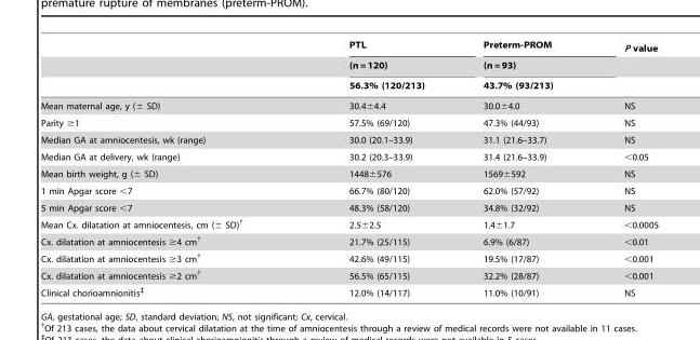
<table><thead><tr><td rowspan="3"></td><td rowspan="3">PTL (n = 120) 56.3% (120/213)</td><td rowspan="3">Preterm-PROM (n = 93) 43.7% (93/213)</td><td rowspan="3">P value</td></tr><tr></tr><tr></tr></thead><tbody><tr><td>Mean maternal age, y (± SD)</td><td>30.4±4.4</td><td>30.0±4.0</td><td>NS</td></tr><tr><td>Parity ≥1</td><td>57.5% (69/120)</td><td>47.3% (44/93)</td><td>NS</td></tr><tr><td>Median GA at amniocentesis, wk (range)</td><td>30.0 (20.1–33.9)</td><td>31.1 (21.6–33.7)</td><td>NS</td></tr><tr><td>Median GA at delivery, wk (range)</td><td>30.2 (20.3–33.9)</td><td>31.4 (21.6–33.9)</td><td>&lt;0.05</td></tr><tr><td>Mean birth weight, g (± SD)</td><td>1448±576</td><td>1569±592</td><td>NS</td></tr><tr><td>1 min Apgar score &lt;7</td><td>66.7% (80/120)</td><td>62.0% (57/92)</td><td>NS</td></tr><tr><td>5 min Apgar score &lt;7</td><td>48.3% (58/120)</td><td>34.8% (32/92)</td><td>NS</td></tr><tr><td>Mean Cx. dilatation at amniocentesis, cm (± SD)†</td><td>2.5±2.5</td><td>1.4±1.7</td><td>&lt;0.0005</td></tr><tr><td>Cx. dilatation at amniocentesis ≥4 cm†</td><td>21.7% (25/115)</td><td>6.9% (6/87)</td><td>&lt;0.01</td></tr><tr><td>Cx. dilatation at amniocentesis ≥3 cm†</td><td>42.6% (49/115)</td><td>19.5% (17/87)</td><td>&lt;0.001</td></tr><tr><td>Cx. dilatation at amniocentesis ≥2 cm†</td><td>56.5% (65/115)</td><td>32.2% (28/87)</td><td>&lt;0.001</td></tr><tr><td>Clinical chorioamnionitis‡</td><td>12.0% (14/117)</td><td>11.0% (10/91)</td><td>NS</td></tr></tbody></table>